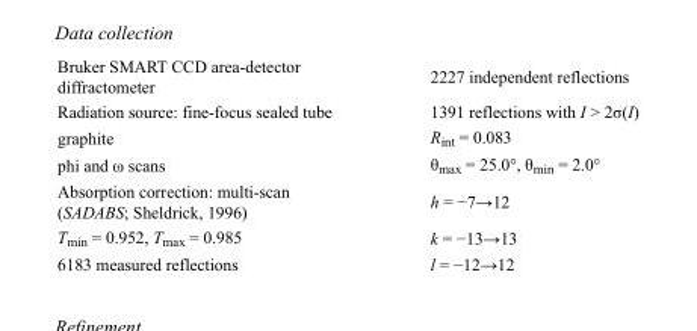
<table><tbody><tr><td>Bruker SMART CCD area-detector diffractometer</td><td>2227 independent reflections</td></tr><tr><td>Radiation source: fine-focus sealed tube</td><td>1391 reflections with I &gt; 2σ(I)</td></tr><tr><td>graphite</td><td>R<sub>int</sub> = 0.083</td></tr><tr><td>phi and ω scans</td><td>θ<sub>max</sub> = 25.0°, θ<sub>min</sub> = 2.0°</td></tr><tr><td>Absorption correction: multi-scan (SADABS; Sheldrick, 1996)</td><td>h = −7→12</td></tr><tr><td>T<sub>min</sub> = 0.952, T<sub>max</sub> = 0.985</td><td>k = −13→13</td></tr><tr><td>6183 measured reflections</td><td>l = −12→12</td></tr></tbody></table>